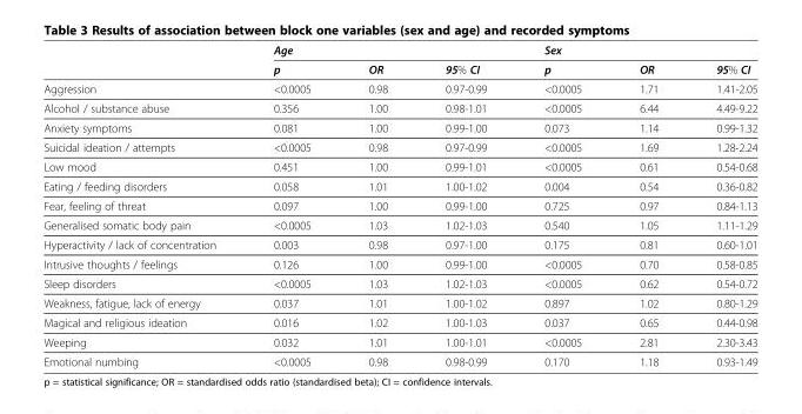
<table><thead><tr><td rowspan="2"></td><td colspan="3">Age</td><td colspan="3">Sex</td></tr><tr><td>p</td><td>OR</td><td>95% CI</td><td>p</td><td>OR</td><td>95% CI</td></tr></thead><tbody><tr><td>Aggression</td><td>&lt;0.0005</td><td>0.98</td><td>0.97-0.99</td><td>&lt;0.0005</td><td>1.71</td><td>1.41-2.05</td></tr><tr><td>Alcohol / substance abuse</td><td>0.356</td><td>1.00</td><td>0.98-1.01</td><td>&lt;0.0005</td><td>6.44</td><td>4.49-9.22</td></tr><tr><td>Anxiety symptoms</td><td>0.081</td><td>1.00</td><td>0.99-1.00</td><td>0.073</td><td>1.14</td><td>0.99-1.32</td></tr><tr><td>Suicidal ideation / attempts</td><td>&lt;0.0005</td><td>0.98</td><td>0.97-0.99</td><td>&lt;0.0005</td><td>1.69</td><td>1.28-2.24</td></tr><tr><td>Low mood</td><td>0.451</td><td>1.00</td><td>0.99-1.01</td><td>&lt;0.0005</td><td>0.61</td><td>0.54-0.68</td></tr><tr><td>Eating / feeding disorders</td><td>0.058</td><td>1.01</td><td>1.00-1.02</td><td>0.004</td><td>0.54</td><td>0.36-0.82</td></tr><tr><td>Fear, feeling of threat</td><td>0.097</td><td>1.00</td><td>0.99-1.00</td><td>0.725</td><td>0.97</td><td>0.84-1.13</td></tr><tr><td>Generalised somatic body pain</td><td>&lt;0.0005</td><td>1.03</td><td>1.02-1.03</td><td>0.540</td><td>1.05</td><td>1.11-1.29</td></tr><tr><td>Hyperactivity / lack of concentration</td><td>0.003</td><td>0.98</td><td>0.97-1.00</td><td>0.175</td><td>0.81</td><td>0.60-1.01</td></tr><tr><td>Intrusive thoughts / feelings</td><td>0.126</td><td>1.00</td><td>0.99-1.00</td><td>&lt;0.0005</td><td>0.70</td><td>0.58-0.85</td></tr><tr><td>Sleep disorders</td><td>&lt;0.0005</td><td>1.03</td><td>1.02-1.03</td><td>&lt;0.0005</td><td>0.62</td><td>0.54-0.72</td></tr><tr><td>Weakness, fatigue, lack of energy</td><td>0.037</td><td>1.01</td><td>1.00-1.02</td><td>0.897</td><td>1.02</td><td>0.80-1.29</td></tr><tr><td>Magical and religious ideation</td><td>0.016</td><td>1.02</td><td>1.00-1.03</td><td>0.037</td><td>0.65</td><td>0.44-0.98</td></tr><tr><td>Weeping</td><td>0.032</td><td>1.01</td><td>1.00-1.01</td><td>&lt;0.0005</td><td>2.81</td><td>2.30-3.43</td></tr><tr><td>Emotional numbing</td><td>&lt;0.0005</td><td>0.98</td><td>0.98-0.99</td><td>0.170</td><td>1.18</td><td>0.93-1.49</td></tr></tbody></table>